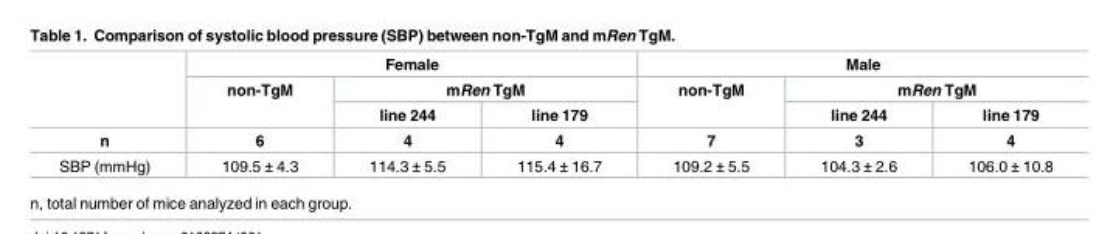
<table><thead><tr><td rowspan="4">n</td><td colspan="3">Female</td><td colspan="3">Male</td></tr><tr><td rowspan="3">non-TgM 6</td><td colspan="2">mRen TgM</td><td rowspan="3">non-TgM 7</td><td colspan="2">mRen TgM</td></tr><tr><td rowspan="2">line 244 4</td><td rowspan="2">line 179 4</td><td rowspan="2">line 244 3</td><td rowspan="2">line 179 4</td></tr><tr></tr></thead><tbody><tr><td>SBP (mmHg)</td><td>109.5 ± 4.3</td><td>114.3 ± 5.5</td><td>115.4 ± 16.7</td><td>109.2 ± 5.5</td><td>104.3 ± 2.6</td><td>106.0 ± 10.8</td></tr></tbody></table>